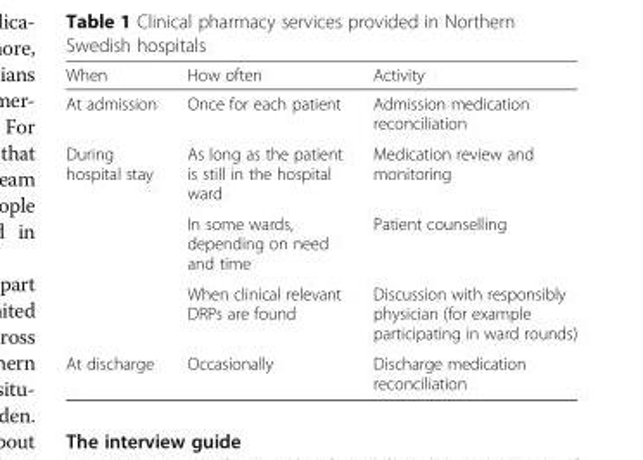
<table><thead><tr><td>When</td><td>How often</td><td>Activity</td></tr></thead><tbody><tr><td>At admission</td><td>Once for each patient</td><td>Admission medication reconciliation</td></tr><tr><td rowspan="3">During hospital stay</td><td>As long as the patient is still in the hospital ward</td><td>Medication review and monitoring</td></tr><tr><td>In some wards, depending on need and time</td><td>Patient counselling</td></tr><tr><td>When clinical relevant DRPs are found</td><td>Discussion with responsibly physician (for example participating in ward rounds)</td></tr><tr><td>At discharge</td><td>Occasionally</td><td>Discharge medication reconciliation</td></tr></tbody></table>